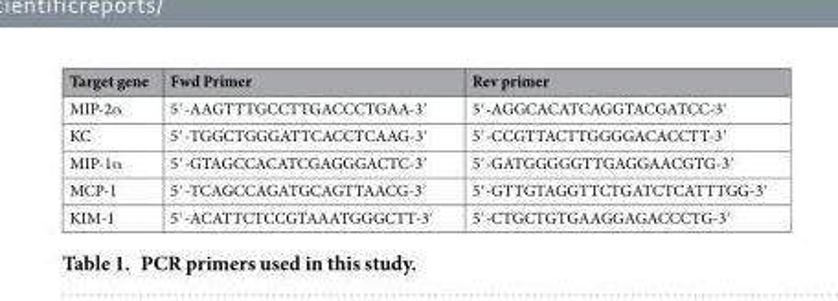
<table><thead><tr><td>Target gene</td><td>Fwd Primer</td><td>Rev primer</td></tr></thead><tbody><tr><td>MIP-2α</td><td>5′ -AAGTTTGCCTTGACCCTGAA-3′</td><td>5′ -AGGCACATCAGGTACGATCC-3′</td></tr><tr><td>KC</td><td>5′ -TGGCTGGGATTCACCTCAAG-3′</td><td>5′ -CCGTTACTTGGGGACACCTT-3′</td></tr><tr><td>MIP-1α</td><td>5′ -GTAGCCACATCGAGGGACTC-3′</td><td>5′ -GATGGGGGTTGAGGAACGTG-3′</td></tr><tr><td>MCP-1</td><td>5′ -TCAGCCAGATGCAGTTAACG-3′</td><td>5′ -GTTGTAGGTTCTGATCTCATTTGG-3′</td></tr><tr><td>KIM-1</td><td>5′ -ACATTCTCCGTAAATGGGCTT-3′</td><td>5′ -CTGCTGTGAAGGAGACCCTG-3′</td></tr></tbody></table>